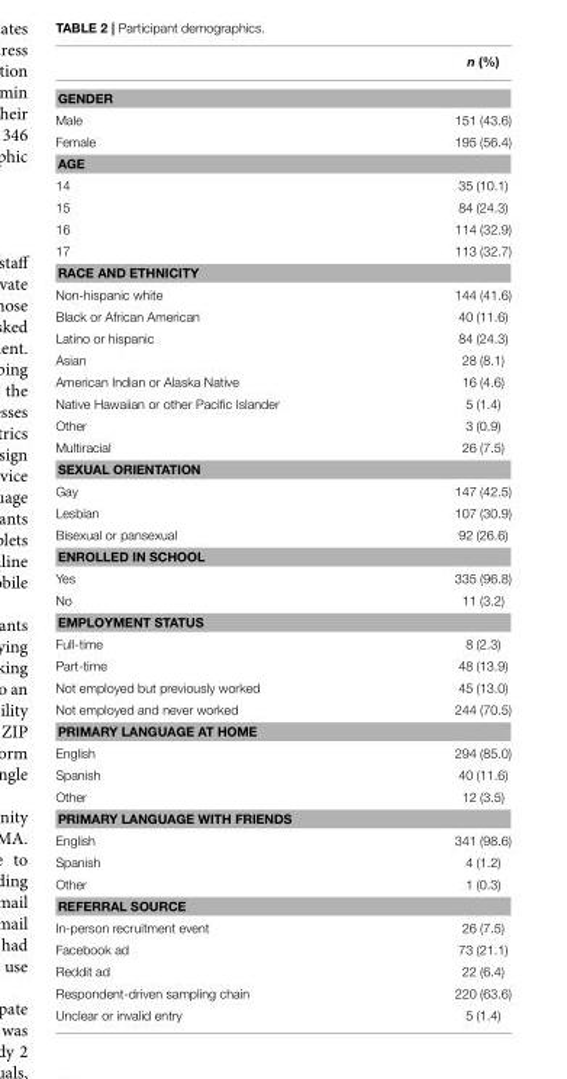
<table><thead><tr><td></td><td>n (%)</td></tr></thead><tbody><tr><td colspan="2">GENDER</td></tr><tr><td>Male</td><td>151 (43.6)</td></tr><tr><td>Female</td><td>195 (56.4)</td></tr><tr><td colspan="2">AGE</td></tr><tr><td>14</td><td>35 (10.1)</td></tr><tr><td>15</td><td>84 (24.3)</td></tr><tr><td>16</td><td>114 (32.9)</td></tr><tr><td>17</td><td>113 (32.7)</td></tr><tr><td colspan="2">RACE AND ETHNICITY</td></tr><tr><td>Non-hispanic white</td><td>144 (41.6)</td></tr><tr><td>Black or African American</td><td>40 (11.6)</td></tr><tr><td>Latino or hispanic</td><td>84 (24.3)</td></tr><tr><td>Asian</td><td>28 (8.1)</td></tr><tr><td>American Indian or Alaska Native</td><td>16 (4.6)</td></tr><tr><td>Native Hawaiian or other Pacific Islander</td><td>5 (1.4)</td></tr><tr><td>Other</td><td>3 (0.9)</td></tr><tr><td>Multiracial</td><td>26 (7.5)</td></tr><tr><td colspan="2">SEXUAL ORIENTATION</td></tr><tr><td>Gay</td><td>147 (42.5)</td></tr><tr><td>Lesbian</td><td>107 (30.9)</td></tr><tr><td>Bisexual or pansexual</td><td>92 (26.6)</td></tr><tr><td colspan="2">ENROLLED IN SCHOOL</td></tr><tr><td>Yes</td><td>335 (96.8)</td></tr><tr><td>No</td><td>11 (3.2)</td></tr><tr><td colspan="2">EMPLOYMENT STATUS</td></tr><tr><td>Full-time</td><td>8 (2.3)</td></tr><tr><td>Part-time</td><td>48 (13.9)</td></tr><tr><td>Not employed but previously worked</td><td>45 (13.0)</td></tr><tr><td>Not employed and never worked</td><td>244 (70.5)</td></tr><tr><td colspan="2">PRIMARY LANGUAGE AT HOME</td></tr><tr><td>English</td><td>294 (85.0)</td></tr><tr><td>Spanish</td><td>40 (11.6)</td></tr><tr><td>Other</td><td>12 (3.5)</td></tr><tr><td colspan="2">PRIMARY LANGUAGE WITH FRIENDS</td></tr><tr><td>English</td><td>341 (98.6)</td></tr><tr><td>Spanish</td><td>4 (1.2)</td></tr><tr><td>Other</td><td>1 (0.3)</td></tr><tr><td colspan="2">REFERRAL SOURCE</td></tr><tr><td>In-person recruitment event</td><td>26 (7.5)</td></tr><tr><td>Facebook ad</td><td>73 (21.1)</td></tr><tr><td>Reddit ad</td><td>22 (6.4)</td></tr><tr><td>Respondent-driven sampling chain</td><td>220 (63.6)</td></tr><tr><td>Unclear or invalid entry</td><td>5 (1.4)</td></tr></tbody></table>